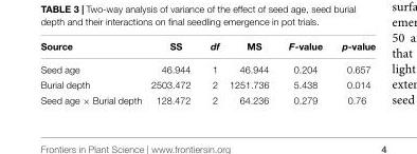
<table><thead><tr><td>Source</td><td>SS</td><td>df</td><td>MS</td><td>F-value</td><td>p-value</td></tr></thead><tbody><tr><td>Seed age</td><td>46.944</td><td>1</td><td>46.944</td><td>0.204</td><td>0.657</td></tr><tr><td>Burial depth</td><td>2503.472</td><td>2</td><td>1251.736</td><td>5.438</td><td>0.014</td></tr><tr><td>Seed age × Burial depth</td><td>128.472</td><td>2</td><td>64.236</td><td>0.279</td><td>0.76</td></tr></tbody></table>